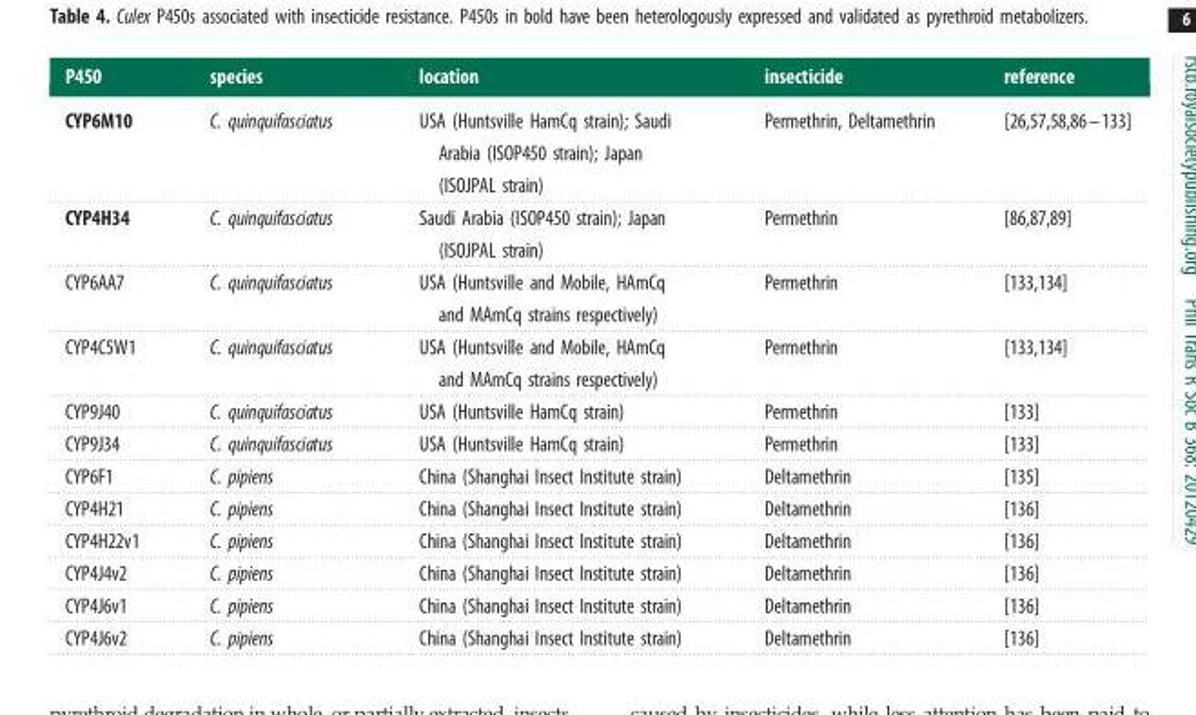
<table><thead><tr><td>P450</td><td>species</td><td>location</td><td>insecticide</td><td>reference</td></tr></thead><tbody><tr><td>CYP6M10</td><td>C. quinquifasciatus</td><td>USA (Huntsville HamCq strain); Saudi Arabia (ISOP450 strain); Japan (ISOJPAL strain)</td><td>Permethrin, Deltamethrin</td><td>[26,57,58,86–133]</td></tr><tr><td>CYP4H34</td><td>C. quinquifasciatus</td><td>Saudi Arabia (ISOP450 strain); Japan (ISOJPAL strain)</td><td>Permethrin</td><td>[86,87,89]</td></tr><tr><td>CYP6AA7</td><td>C. quinquifasciatus</td><td>USA (Huntsville and Mobile, HAmCq and MAmCq strains respectively)</td><td>Permethrin</td><td>[133,134]</td></tr><tr><td>CYP4C5W1</td><td>C. quinquifasciatus</td><td>USA (Huntsville and Mobile, HAmCq and MAmCq strains respectively)</td><td>Permethrin</td><td>[133,134]</td></tr><tr><td>CYP9J40</td><td>C. quinquifasciatus</td><td>USA (Huntsville HamCq strain)</td><td>Permethrin</td><td>[133]</td></tr><tr><td>CYP9J34</td><td>C. quinquifasciatus</td><td>USA (Huntsville HamCq strain)</td><td>Permethrin</td><td>[133]</td></tr><tr><td>CYP6F1</td><td>C. pipiens</td><td>China (Shanghai Insect Institute strain)</td><td>Deltamethrin</td><td>[135]</td></tr><tr><td>CYP4H21</td><td>C. pipiens</td><td>China (Shanghai Insect Institute strain)</td><td>Deltamethrin</td><td>[136]</td></tr><tr><td>CYP4H22v1</td><td>C. pipiens</td><td>China (Shanghai Insect Institute strain)</td><td>Deltamethrin</td><td>[136]</td></tr><tr><td>CYP4J4v2</td><td>C. pipiens</td><td>China (Shanghai Insect Institute strain)</td><td>Deltamethrin</td><td>[136]</td></tr><tr><td>CYP4J6v1</td><td>C. pipiens</td><td>China (Shanghai Insect Institute strain)</td><td>Deltamethrin</td><td>[136]</td></tr><tr><td>CYP4J6v2</td><td>C. pipiens</td><td>China (Shanghai Insect Institute strain)</td><td>Deltamethrin</td><td>[136]</td></tr></tbody></table>